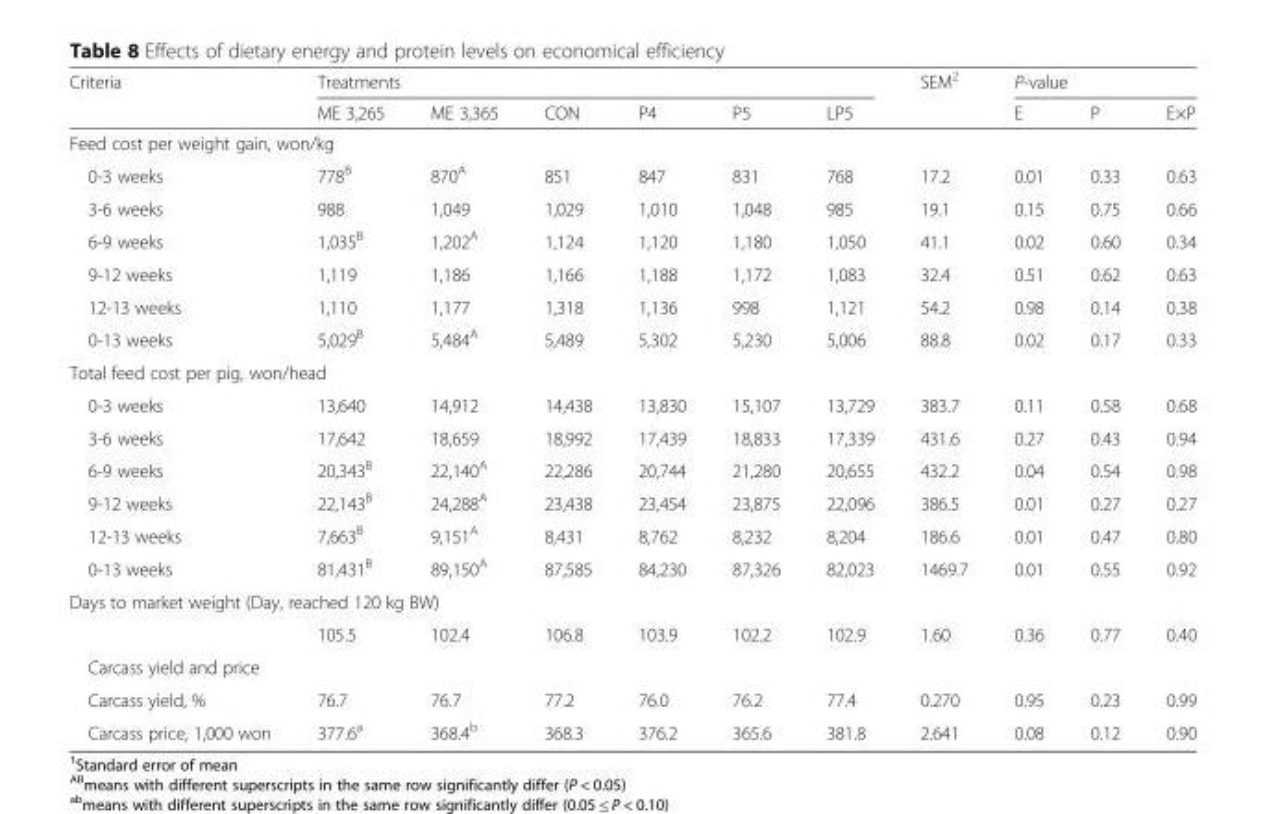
<table><thead><tr><td rowspan="2">Criteria</td><td colspan="6">Treatments</td><td rowspan="2">SEM<sup>2</sup></td><td colspan="3">P-value</td></tr><tr><td>ME 3,265</td><td>ME 3,365</td><td>CON</td><td>P4</td><td>P5</td><td>LP5</td><td>E</td><td>P</td><td>E×P</td></tr></thead><tbody><tr><td colspan="11">Feed cost per weight gain, won/kg</td></tr><tr><td>0-3 weeks</td><td>778<sup>B</sup></td><td>870<sup>A</sup></td><td>851</td><td>847</td><td>831</td><td>768</td><td>17.2</td><td>0.01</td><td>0.33</td><td>0.63</td></tr><tr><td>3-6 weeks</td><td>988</td><td>1,049</td><td>1,029</td><td>1,010</td><td>1,048</td><td>985</td><td>19.1</td><td>0.15</td><td>0.75</td><td>0.66</td></tr><tr><td>6-9 weeks</td><td>1,035<sup>B</sup></td><td>1,202<sup>A</sup></td><td>1,124</td><td>1,120</td><td>1,180</td><td>1,050</td><td>41.1</td><td>0.02</td><td>0.60</td><td>0.34</td></tr><tr><td>9-12 weeks</td><td>1,119</td><td>1,186</td><td>1,166</td><td>1,188</td><td>1,172</td><td>1,083</td><td>32.4</td><td>0.51</td><td>0.62</td><td>0.63</td></tr><tr><td>12-13 weeks</td><td>1,110</td><td>1,177</td><td>1,318</td><td>1,136</td><td>998</td><td>1,121</td><td>54.2</td><td>0.98</td><td>0.14</td><td>0.38</td></tr><tr><td>0-13 weeks</td><td>5,029<sup>B</sup></td><td>5,484<sup>A</sup></td><td>5,489</td><td>5,302</td><td>5,230</td><td>5,006</td><td>88.8</td><td>0.02</td><td>0.17</td><td>0.33</td></tr><tr><td colspan="11">Total feed cost per pig, won/head</td></tr><tr><td>0-3 weeks</td><td>13,640</td><td>14,912</td><td>14,438</td><td>13,830</td><td>15,107</td><td>13,729</td><td>383.7</td><td>0.11</td><td>0.58</td><td>0.68</td></tr><tr><td>3-6 weeks</td><td>17,642</td><td>18,659</td><td>18,992</td><td>17,439</td><td>18,833</td><td>17,339</td><td>431.6</td><td>0.27</td><td>0.43</td><td>0.94</td></tr><tr><td>6-9 weeks</td><td>20,343<sup>B</sup></td><td>22,140<sup>A</sup></td><td>22,286</td><td>20,744</td><td>21,280</td><td>20,655</td><td>432.2</td><td>0.04</td><td>0.54</td><td>0.98</td></tr><tr><td>9-12 weeks</td><td>22,143<sup>B</sup></td><td>24,288<sup>A</sup></td><td>23,438</td><td>23,454</td><td>23,875</td><td>22,096</td><td>386.5</td><td>0.01</td><td>0.27</td><td>0.27</td></tr><tr><td>12-13 weeks</td><td>7,663<sup>B</sup></td><td>9,151<sup>A</sup></td><td>8,431</td><td>8,762</td><td>8,232</td><td>8,204</td><td>186.6</td><td>0.01</td><td>0.47</td><td>0.80</td></tr><tr><td>0-13 weeks</td><td>81,431<sup>B</sup></td><td>89,150<sup>A</sup></td><td>87,585</td><td>84,230</td><td>87,326</td><td>82,023</td><td>1469.7</td><td>0.01</td><td>0.55</td><td>0.92</td></tr><tr><td colspan="11">Days to market weight (Day, reached 120 kg BW)</td></tr><tr><td></td><td>105.5</td><td>102.4</td><td>106.8</td><td>103.9</td><td>102.2</td><td>102.9</td><td>1.60</td><td>0.36</td><td>0.77</td><td>0.40</td></tr><tr><td colspan="11">Carcass yield and price</td></tr><tr><td>Carcass yield, %</td><td>76.7</td><td>76.7</td><td>77.2</td><td>76.0</td><td>76.2</td><td>77.4</td><td>0.270</td><td>0.95</td><td>0.23</td><td>0.99</td></tr><tr><td>Carcass price, 1,000 won</td><td>377.6<sup>a</sup></td><td>368.4<sup>b</sup></td><td>368.3</td><td>376.2</td><td>365.6</td><td>381.8</td><td>2.641</td><td>0.08</td><td>0.12</td><td>0.90</td></tr></tbody></table>